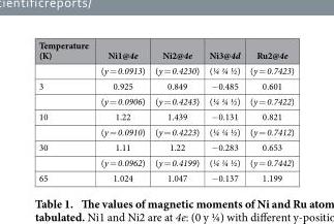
<table><thead><tr><td>Temperature (K)</td><td>Ni1@4e</td><td>Ni2@4e</td><td>Ni3@4d</td><td>Ru2@4e</td></tr></thead><tbody><tr><td></td><td>(y = 0.0913)</td><td>(y = 0.4230)</td><td>(¼ ¼ ½)</td><td>(y = 0.7423)</td></tr><tr><td rowspan="2">3</td><td>0.925</td><td>0.849</td><td>− 0.485</td><td>0.601</td></tr><tr><td>(y = 0.0906)</td><td>(y = 0.4243)</td><td>(¼ ¼ ½)</td><td>(y = 0.7422)</td></tr><tr><td rowspan="2">10</td><td>1.22</td><td>1.439</td><td>− 0.131</td><td>0.821</td></tr><tr><td>(y = 0.0910)</td><td>(y = 0.4223)</td><td>(¼ ¼ ½)</td><td>(y = 0.7412)</td></tr><tr><td rowspan="2">30</td><td>1.11</td><td>1.22</td><td>− 0.283</td><td>0.653</td></tr><tr><td>(y = 0.0962)</td><td>(y = 0.4199)</td><td>(¼ ¼ ½)</td><td>(y = 0.7442)</td></tr><tr><td>65</td><td>1.024</td><td>1.047</td><td>− 0.137</td><td>1.199</td></tr></tbody></table>